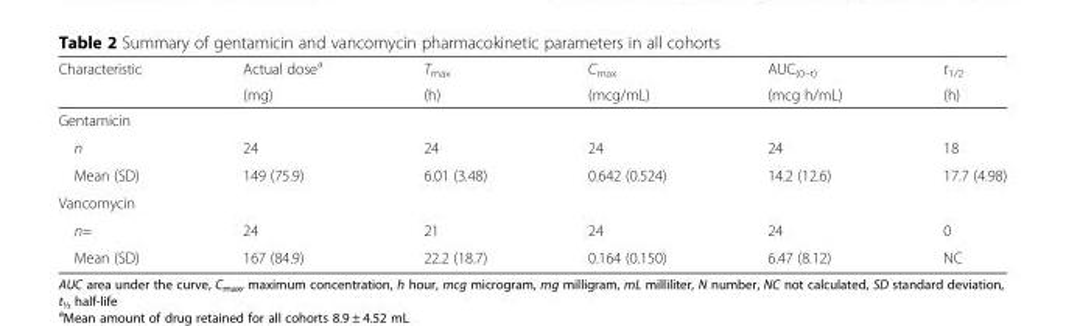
<table><thead><tr><td rowspan="2">Characteristic</td><td rowspan="2">Actual dose<sup>a</sup> (mg)</td><td rowspan="2">T<sub>max</sub> (h)</td><td rowspan="2">C<sub>max</sub> (mcg/mL)</td><td rowspan="2">AUC<sub>(0–t)</sub> (mcg h/mL)</td><td rowspan="2">t<sub>1/2</sub> (h)</td></tr><tr></tr></thead><tbody><tr><td colspan="6">Gentamicin</td></tr><tr><td>n</td><td>24</td><td>24</td><td>24</td><td>24</td><td>18</td></tr><tr><td>Mean (SD)</td><td>149 (75.9)</td><td>6.01 (3.48)</td><td>0.642 (0.524)</td><td>14.2 (12.6)</td><td>17.7 (4.98)</td></tr><tr><td colspan="6">Vancomycin</td></tr><tr><td>n=</td><td>24</td><td>21</td><td>24</td><td>24</td><td>0</td></tr><tr><td>Mean (SD)</td><td>167 (84.9)</td><td>22.2 (18.7)</td><td>0.164 (0.150)</td><td>6.47 (8.12)</td><td>NC</td></tr></tbody></table>